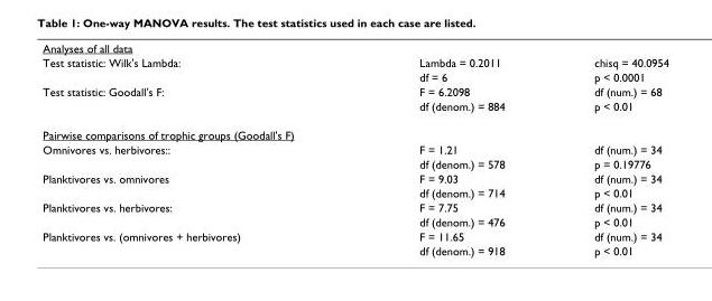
<table><tbody><tr><td colspan="3">Analyses of all data</td></tr><tr><td rowspan="2">Test statistic: Wilk&#x27;s Lambda:</td><td>Lambda = 0.2011</td><td>chisq = 40.0954</td></tr><tr><td>df = 6</td><td>p &lt; 0.0001</td></tr><tr><td rowspan="2">Test statistic: Goodall&#x27;s F:</td><td>F = 6.2098</td><td>df (num.) = 68</td></tr><tr><td>df (denom.) = 884</td><td>p &lt; 0.01</td></tr><tr><td colspan="3">Pairwise comparisons of trophic groups (Goodall&#x27;s F)</td></tr><tr><td rowspan="2">Omnivores vs. herbivores::</td><td>F = 1.21</td><td>df (num.) = 34</td></tr><tr><td>df (denom.) = 578</td><td>p = 0.19776</td></tr><tr><td rowspan="2">Planktivores vs. omnivores</td><td>F = 9.03</td><td>df (num.) = 34</td></tr><tr><td>df (denom.) = 714</td><td>p &lt; 0.01</td></tr><tr><td rowspan="2">Planktivores vs. herbivores:</td><td>F = 7.75</td><td>df (num.) = 34</td></tr><tr><td>df (denom.) = 476</td><td>p &lt; 0.01</td></tr><tr><td rowspan="2">Planktivores vs. (omnivores + herbivores)</td><td>F = 11.65</td><td>df (num.) = 34</td></tr><tr><td>df (denom.) = 918</td><td>p &lt; 0.01</td></tr></tbody></table>